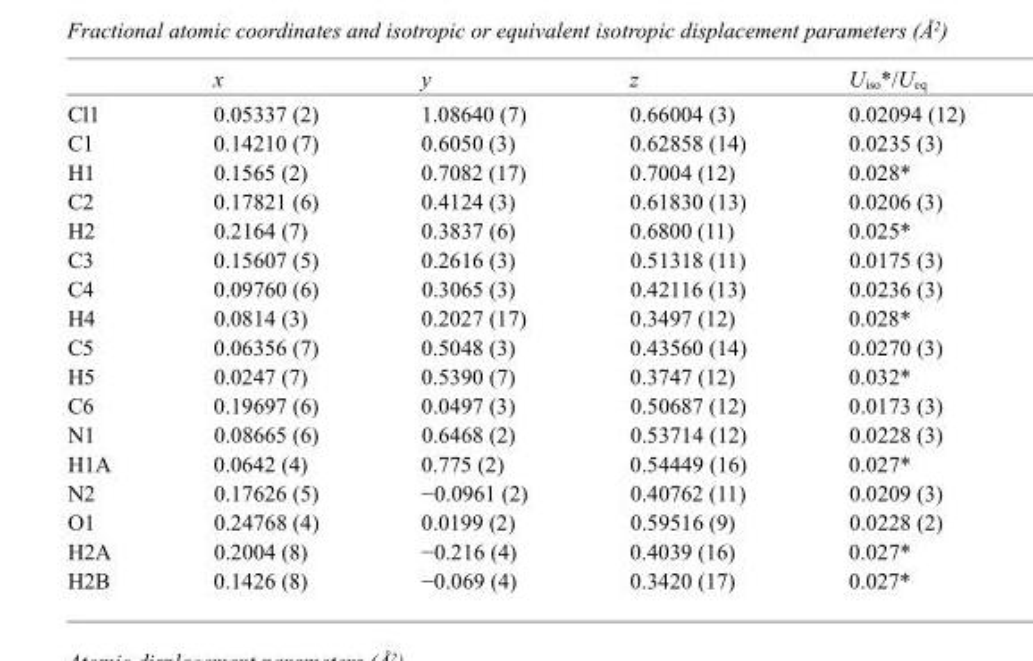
<table><thead><tr><td></td><td>x</td><td>y</td><td>z</td><td>U<sub>iso</sub>*/U<sub>eq</sub></td></tr></thead><tbody><tr><td>Cl1</td><td>0.05337 (2)</td><td>1.08640 (7)</td><td>0.66004 (3)</td><td>0.02094 (12)</td></tr><tr><td>C1</td><td>0.14210 (7)</td><td>0.6050 (3)</td><td>0.62858 (14)</td><td>0.0235 (3)</td></tr><tr><td>H1</td><td>0.1565 (2)</td><td>0.7082 (17)</td><td>0.7004 (12)</td><td>0.028*</td></tr><tr><td>C2</td><td>0.17821 (6)</td><td>0.4124 (3)</td><td>0.61830 (13)</td><td>0.0206 (3)</td></tr><tr><td>H2</td><td>0.2164 (7)</td><td>0.3837 (6)</td><td>0.6800 (11)</td><td>0.025*</td></tr><tr><td>C3</td><td>0.15607 (5)</td><td>0.2616 (3)</td><td>0.51318 (11)</td><td>0.0175 (3)</td></tr><tr><td>C4</td><td>0.09760 (6)</td><td>0.3065 (3)</td><td>0.42116 (13)</td><td>0.0236 (3)</td></tr><tr><td>H4</td><td>0.0814 (3)</td><td>0.2027 (17)</td><td>0.3497 (12)</td><td>0.028*</td></tr><tr><td>C5</td><td>0.06356 (7)</td><td>0.5048 (3)</td><td>0.43560 (14)</td><td>0.0270 (3)</td></tr><tr><td>H5</td><td>0.0247 (7)</td><td>0.5390 (7)</td><td>0.3747 (12)</td><td>0.032*</td></tr><tr><td>C6</td><td>0.19697 (6)</td><td>0.0497 (3)</td><td>0.50687 (12)</td><td>0.0173 (3)</td></tr><tr><td>N1</td><td>0.08665 (6)</td><td>0.6468 (2)</td><td>0.53714 (12)</td><td>0.0228 (3)</td></tr><tr><td>H1A</td><td>0.0642 (4)</td><td>0.775 (2)</td><td>0.54449 (16)</td><td>0.027*</td></tr><tr><td>N2</td><td>0.17626 (5)</td><td>−0.0961 (2)</td><td>0.40762 (11)</td><td>0.0209 (3)</td></tr><tr><td>O1</td><td>0.24768 (4)</td><td>0.0199 (2)</td><td>0.59516 (9)</td><td>0.0228 (2)</td></tr><tr><td>H2A</td><td>0.2004 (8)</td><td>−0.216 (4)</td><td>0.4039 (16)</td><td>0.027*</td></tr><tr><td>H2B</td><td>0.1426 (8)</td><td>−0.069 (4)</td><td>0.3420 (17)</td><td>0.027*</td></tr></tbody></table>